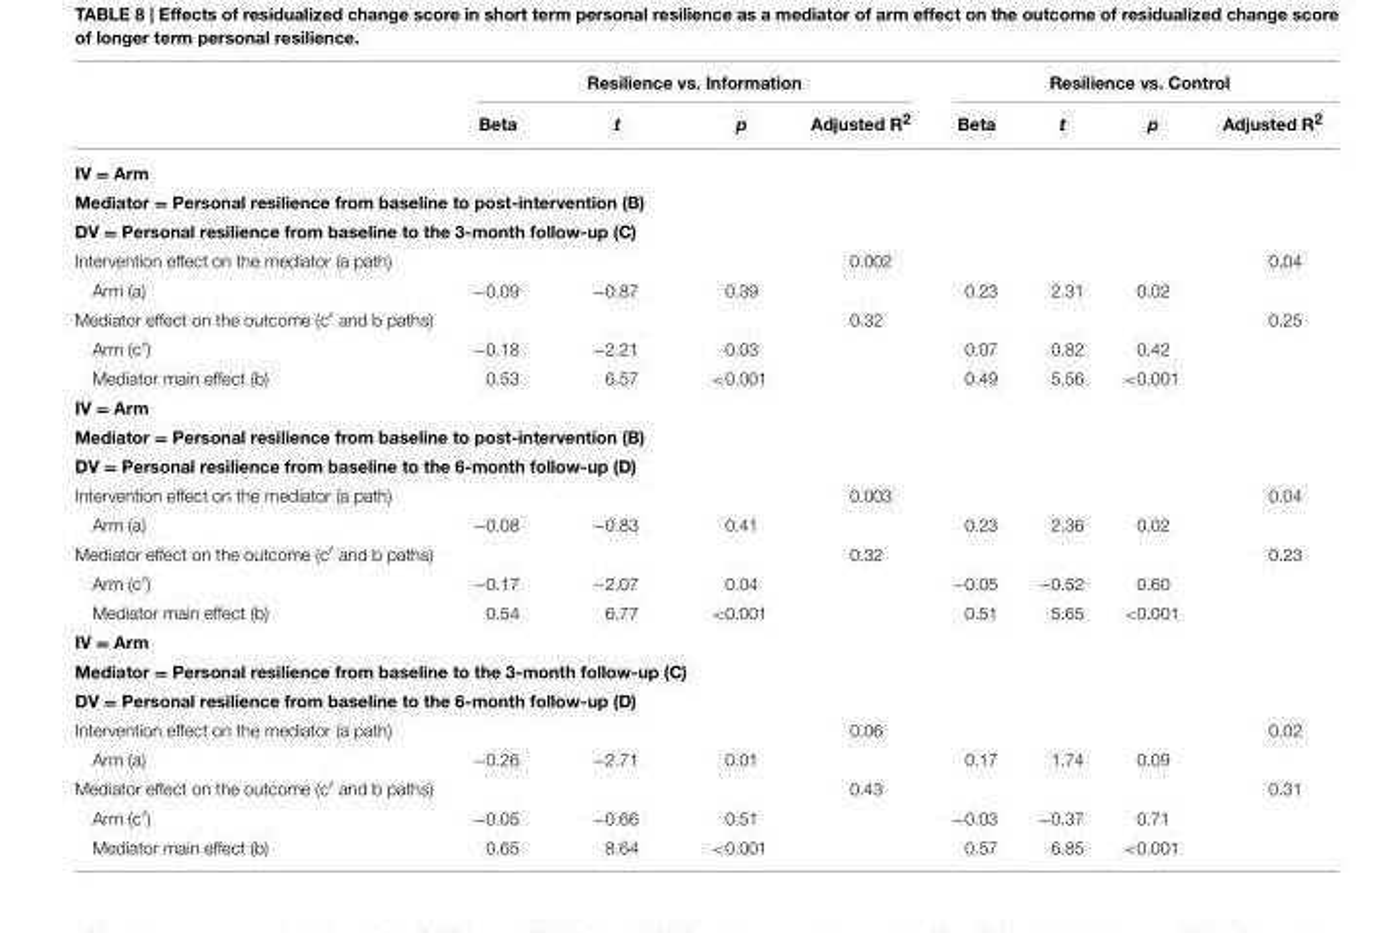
<table><thead><tr><td rowspan="2"></td><td colspan="4">Resilience vs. Information</td><td colspan="4">Resilience vs. Control</td></tr><tr><td>Beta</td><td>t</td><td>p</td><td>Adjusted R<sup>2</sup></td><td>Beta</td><td>t</td><td>p</td><td>Adjusted R<sup>2</sup></td></tr></thead><tbody><tr><td colspan="9">IV = Arm</td></tr><tr><td colspan="9">Mediator = Personal resilience from baseline to post-intervention (B)</td></tr><tr><td colspan="9">DV = Personal resilience from baseline to the 3-month follow-up (C)</td></tr><tr><td>Intervention effect on the mediator (a path)</td><td></td><td></td><td></td><td>0.002</td><td></td><td></td><td></td><td>0.04</td></tr><tr><td>Arm (a)</td><td>−0.09</td><td>−0.87</td><td>0.39</td><td></td><td>0.23</td><td>2.31</td><td>0.02</td><td></td></tr><tr><td>Mediator effect on the outcome (c′ and b paths)</td><td></td><td></td><td></td><td>0.32</td><td></td><td></td><td></td><td>0.25</td></tr><tr><td>Arm (c′)</td><td>−0.18</td><td>−2.21</td><td>0.03</td><td></td><td>0.07</td><td>0.82</td><td>0.42</td><td></td></tr><tr><td>Mediator main effect (b)</td><td>0.53</td><td>6.57</td><td>&lt;0.001</td><td></td><td>0.49</td><td>5.56</td><td>&lt;0.001</td><td></td></tr><tr><td colspan="9">IV = Arm</td></tr><tr><td colspan="9">Mediator = Personal resilience from baseline to post-intervention (B)</td></tr><tr><td colspan="9">DV = Personal resilience from baseline to the 6-month follow-up (D)</td></tr><tr><td>Intervention effect on the mediator (a path)</td><td></td><td></td><td></td><td>0.003</td><td></td><td></td><td></td><td>0.04</td></tr><tr><td>Arm (a)</td><td>−0.08</td><td>−0.83</td><td>0.41</td><td></td><td>0.23</td><td>2.36</td><td>0.02</td><td></td></tr><tr><td>Mediator effect on the outcome (c′ and b paths)</td><td></td><td></td><td></td><td>0.32</td><td></td><td></td><td></td><td>0.23</td></tr><tr><td>Arm (c′)</td><td>−0.17</td><td>−2.07</td><td>0.04</td><td></td><td>−0.05</td><td>−0.52</td><td>0.60</td><td></td></tr><tr><td>Mediator main effect (b)</td><td>0.54</td><td>6.77</td><td>&lt;0.001</td><td></td><td>0.51</td><td>5.65</td><td>&lt;0.001</td><td></td></tr><tr><td colspan="9">IV = Arm</td></tr><tr><td colspan="9">Mediator = Personal resilience from baseline to the 3-month follow-up (C)</td></tr><tr><td colspan="9">DV = Personal resilience from baseline to the 6-month follow-up (D)</td></tr><tr><td>Intervention effect on the mediator (a path)</td><td></td><td></td><td></td><td>0.06</td><td></td><td></td><td></td><td>0.02</td></tr><tr><td>Arm (a)</td><td>−0.26</td><td>−2.71</td><td>0.01</td><td></td><td>0.17</td><td>1.74</td><td>0.09</td><td></td></tr><tr><td>Mediator effect on the outcome (c′ and b paths)</td><td></td><td></td><td></td><td>0.43</td><td></td><td></td><td></td><td>0.31</td></tr><tr><td>Arm (c′)</td><td>−0.05</td><td>−0.66</td><td>0.51</td><td></td><td>−0.03</td><td>−0.37</td><td>0.71</td><td></td></tr><tr><td>Mediator main effect (b)</td><td>0.65</td><td>8.64</td><td>&lt;0.001</td><td></td><td>0.57</td><td>6.85</td><td>&lt;0.001</td><td></td></tr></tbody></table>